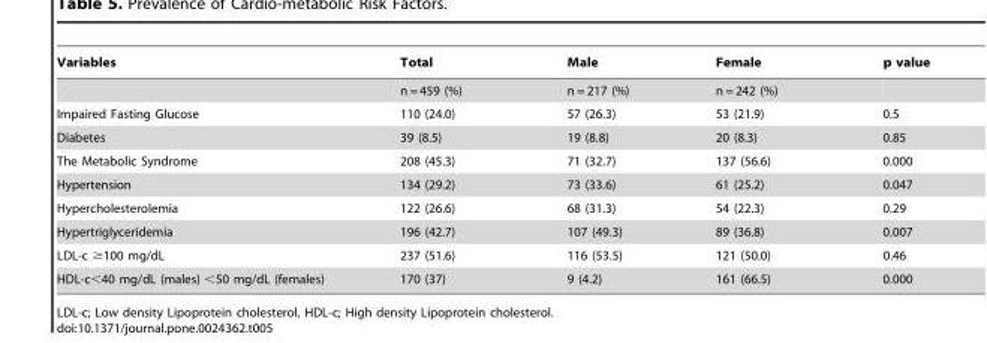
<table><thead><tr><td>Variables</td><td>Total</td><td>Male</td><td>Female</td><td>p value</td></tr></thead><tbody><tr><td></td><td>n = 459 (%)</td><td>n = 217 (%)</td><td>n = 242 (%)</td><td></td></tr><tr><td>Impaired Fasting Glucose</td><td>110 (24.0)</td><td>57 (26.3)</td><td>53 (21.9)</td><td>0.5</td></tr><tr><td>Diabetes</td><td>39 (8.5)</td><td>19 (8.8)</td><td>20 (8.3)</td><td>0.85</td></tr><tr><td>The Metabolic Syndrome</td><td>208 (45.3)</td><td>71 (32.7)</td><td>137 (56.6)</td><td>0.000</td></tr><tr><td>Hypertension</td><td>134 (29.2)</td><td>73 (33.6)</td><td>61 (25.2)</td><td>0.047</td></tr><tr><td>Hypercholesterolemia</td><td>122 (26.6)</td><td>68 (31.3)</td><td>54 (22.3)</td><td>0.29</td></tr><tr><td>Hypertriglyceridemia</td><td>196 (42.7)</td><td>107 (49.3)</td><td>89 (36.8)</td><td>0.007</td></tr><tr><td>LDL-c ≥100 mg/dL</td><td>237 (51.6)</td><td>116 (53.5)</td><td>121 (50.0)</td><td>0.46</td></tr><tr><td>HDL-c&lt;40 mg/dL (males) &lt;50 mg/dL (females)</td><td>170 (37)</td><td>9 (4.2)</td><td>161 (66.5)</td><td>0.000</td></tr></tbody></table>